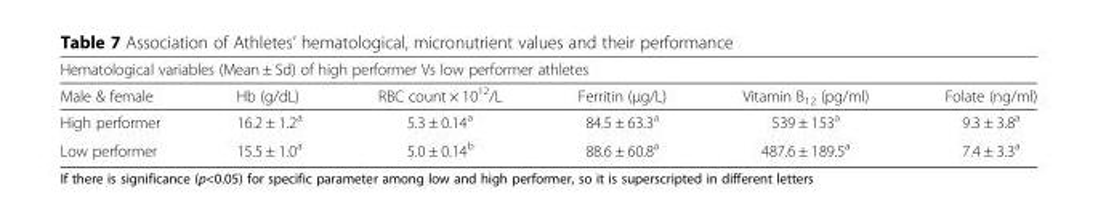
<table><thead><tr><td colspan="6">Hematological variables (Mean ± Sd) of high performer Vs low performer athletes</td></tr><tr><td>Male &amp; female</td><td>Hb (g/dL)</td><td>RBC count × 10<sup>12</sup>/L</td><td>Ferritin (μg/L)</td><td>Vitamin B<sub>12</sub> (pg/ml)</td><td>Folate (ng/ml)</td></tr></thead><tbody><tr><td>High performer</td><td>16.2 ± 1.2<sup>a</sup></td><td>5.3 ± 0.14<sup>a</sup></td><td>84.5 ± 63.3<sup>a</sup></td><td>539 ± 153<sup>a</sup></td><td>9.3 ± 3.8<sup>a</sup></td></tr><tr><td>Low performer</td><td>15.5 ± 1.0<sup>a</sup></td><td>5.0 ± 0.14<sup>b</sup></td><td>88.6 ± 60.8<sup>a</sup></td><td>487.6 ± 189.5<sup>a</sup></td><td>7.4 ± 3.3<sup>a</sup></td></tr></tbody></table>